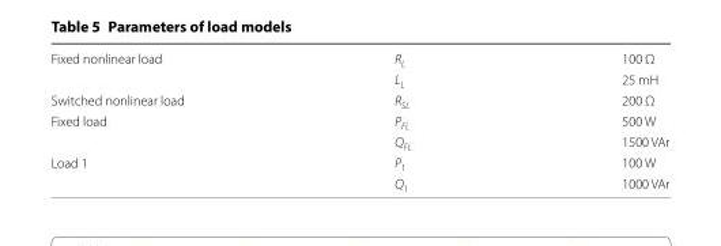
<table><tbody><tr><td rowspan="2">Fixed nonlinear load</td><td>R<sub>L</sub></td><td>100 Ω</td></tr><tr><td>L<sub>L</sub></td><td>25 mH</td></tr><tr><td>Switched nonlinear load</td><td>R<sub>SL</sub></td><td>200 Ω</td></tr><tr><td rowspan="2">Fixed load</td><td>P<sub>FL</sub></td><td>500 W</td></tr><tr><td>Q<sub>FL</sub></td><td>1500 VAr</td></tr><tr><td rowspan="2">Load 1</td><td>P<sub>1</sub></td><td>100 W</td></tr><tr><td>Q<sub>1</sub></td><td>1000 VAr</td></tr></tbody></table>